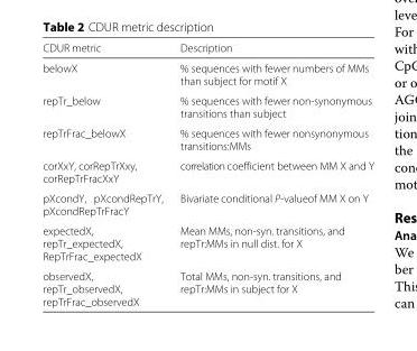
<table><thead><tr><td>CDUR metric</td><td>Description</td></tr></thead><tbody><tr><td>belowX</td><td>% sequences with fewer numbers of MMs than subject for motif X</td></tr><tr><td>repTr_below</td><td>% sequences with fewer non-synonymous transitions than subject</td></tr><tr><td>repTrFrac_belowX</td><td>% sequences with fewer nonsynonymous transitions:MMs</td></tr><tr><td>corXxY, corRepTrXxy, corRepTrFracXxY</td><td>correlation coefficient between MM X and Y</td></tr><tr><td>pXcondY, pXcondRepTrY, pXcondRepTrFracY</td><td>Bivariate conditional P-valueof MM X on Y</td></tr><tr><td>expectedX, repTr_expectedX, RepTrFrac_expectedX</td><td>Mean MMs, non-syn. transitions, and repTr:MMs in null dist. for X</td></tr><tr><td>observedX, repTr_observedX, repTrFrac_observedX</td><td>Total MMs, non-syn. transitions, and repTr:MMs in subject for X</td></tr></tbody></table>